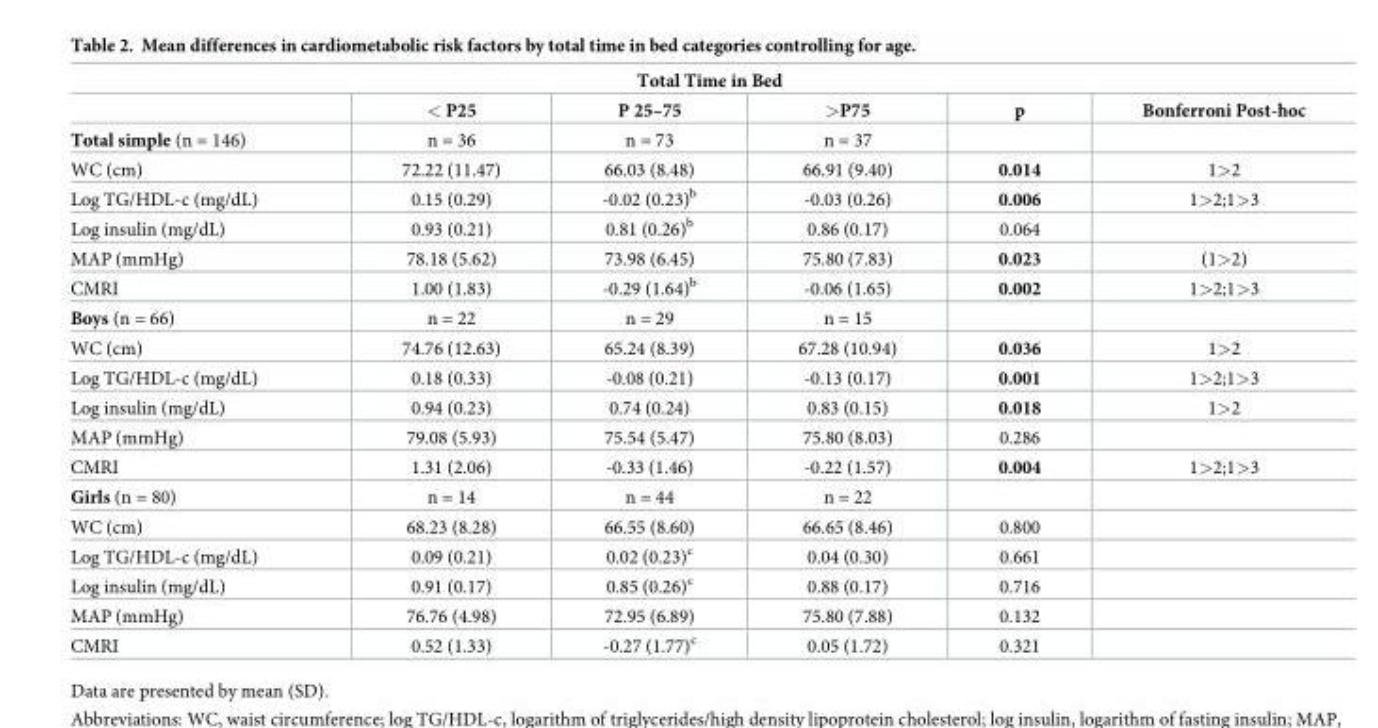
<table><thead><tr><td colspan="6">Total Time in Bed</td></tr><tr><td></td><td>&lt; P25</td><td>P 25–75</td><td>&gt;P75</td><td>p</td><td>Bonferroni Post-hoc</td></tr></thead><tbody><tr><td>Total simple (n = 146)</td><td>n = 36</td><td>n = 73</td><td>n = 37</td><td></td><td></td></tr><tr><td>WC (cm)</td><td>72.22 (11.47)</td><td>66.03 (8.48)</td><td>66.91 (9.40)</td><td>0.014</td><td>1&gt;2</td></tr><tr><td>Log TG/HDL-c (mg/dL)</td><td>0.15 (0.29)</td><td>-0.02 (0.23)<sup>b</sup></td><td>-0.03 (0.26)</td><td>0.006</td><td>1&gt;2;1&gt;3</td></tr><tr><td>Log insulin (mg/dL)</td><td>0.93 (0.21)</td><td>0.81 (0.26)<sup>b</sup></td><td>0.86 (0.17)</td><td>0.064</td><td></td></tr><tr><td>MAP (mmHg)</td><td>78.18 (5.62)</td><td>73.98 (6.45)</td><td>75.80 (7.83)</td><td>0.023</td><td>(1&gt;2)</td></tr><tr><td>CMRI</td><td>1.00 (1.83)</td><td>-0.29 (1.64)<sup>b</sup></td><td>-0.06 (1.65)</td><td>0.002</td><td>1&gt;2;1&gt;3</td></tr><tr><td>Boys (n = 66)</td><td>n = 22</td><td>n = 29</td><td>n = 15</td><td></td><td></td></tr><tr><td>WC (cm)</td><td>74.76 (12.63)</td><td>65.24 (8.39)</td><td>67.28 (10.94)</td><td>0.036</td><td>1&gt;2</td></tr><tr><td>Log TG/HDL-c (mg/dL)</td><td>0.18 (0.33)</td><td>-0.08 (0.21)</td><td>-0.13 (0.17)</td><td>0.001</td><td>1&gt;2;1&gt;3</td></tr><tr><td>Log insulin (mg/dL)</td><td>0.94 (0.23)</td><td>0.74 (0.24)</td><td>0.83 (0.15)</td><td>0.018</td><td>1&gt;2</td></tr><tr><td>MAP (mmHg)</td><td>79.08 (5.93)</td><td>75.54 (5.47)</td><td>75.80 (8.03)</td><td>0.286</td><td></td></tr><tr><td>CMRI</td><td>1.31 (2.06)</td><td>-0.33 (1.46)</td><td>-0.22 (1.57)</td><td>0.004</td><td>1&gt;2;1&gt;3</td></tr><tr><td>Girls (n = 80)</td><td>n = 14</td><td>n = 44</td><td>n = 22</td><td></td><td></td></tr><tr><td>WC (cm)</td><td>68.23 (8.28)</td><td>66.55 (8.60)</td><td>66.65 (8.46)</td><td>0.800</td><td></td></tr><tr><td>Log TG/HDL-c (mg/dL)</td><td>0.09 (0.21)</td><td>0.02 (0.23)<sup>c</sup></td><td>0.04 (0.30)</td><td>0.661</td><td></td></tr><tr><td>Log insulin (mg/dL)</td><td>0.91 (0.17)</td><td>0.85 (0.26)<sup>c</sup></td><td>0.88 (0.17)</td><td>0.716</td><td></td></tr><tr><td>MAP (mmHg)</td><td>76.76 (4.98)</td><td>72.95 (6.89)</td><td>75.80 (7.88)</td><td>0.132</td><td></td></tr><tr><td>CMRI</td><td>0.52 (1.33)</td><td>-0.27 (1.77)<sup>c</sup></td><td>0.05 (1.72)</td><td>0.321</td><td></td></tr></tbody></table>